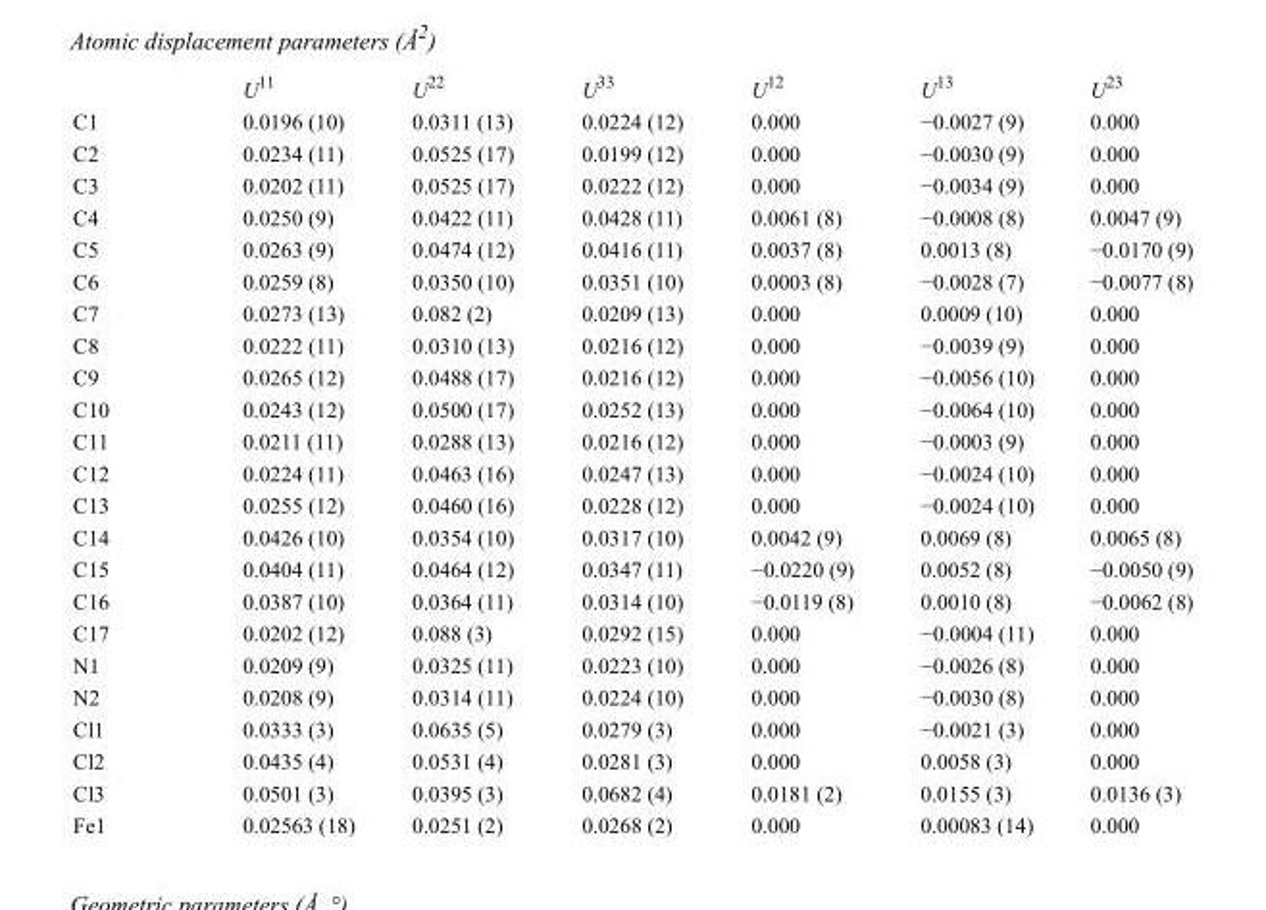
<table><thead><tr><td></td><td>U<sup>11</sup></td><td>U<sup>22</sup></td><td>U<sup>33</sup></td><td>U<sup>12</sup></td><td>U<sup>13</sup></td><td>U<sup>23</sup></td></tr></thead><tbody><tr><td>C1</td><td>0.0196 (10)</td><td>0.0311 (13)</td><td>0.0224 (12)</td><td>0.000</td><td>−0.0027 (9)</td><td>0.000</td></tr><tr><td>C2</td><td>0.0234 (11)</td><td>0.0525 (17)</td><td>0.0199 (12)</td><td>0.000</td><td>−0.0030 (9)</td><td>0.000</td></tr><tr><td>C3</td><td>0.0202 (11)</td><td>0.0525 (17)</td><td>0.0222 (12)</td><td>0.000</td><td>−0.0034 (9)</td><td>0.000</td></tr><tr><td>C4</td><td>0.0250 (9)</td><td>0.0422 (11)</td><td>0.0428 (11)</td><td>0.0061 (8)</td><td>−0.0008 (8)</td><td>0.0047 (9)</td></tr><tr><td>C5</td><td>0.0263 (9)</td><td>0.0474 (12)</td><td>0.0416 (11)</td><td>0.0037 (8)</td><td>0.0013 (8)</td><td>−0.0170 (9)</td></tr><tr><td>C6</td><td>0.0259 (8)</td><td>0.0350 (10)</td><td>0.0351 (10)</td><td>0.0003 (8)</td><td>−0.0028 (7)</td><td>−0.0077 (8)</td></tr><tr><td>C7</td><td>0.0273 (13)</td><td>0.082 (2)</td><td>0.0209 (13)</td><td>0.000</td><td>0.0009 (10)</td><td>0.000</td></tr><tr><td>C8</td><td>0.0222 (11)</td><td>0.0310 (13)</td><td>0.0216 (12)</td><td>0.000</td><td>−0.0039 (9)</td><td>0.000</td></tr><tr><td>C9</td><td>0.0265 (12)</td><td>0.0488 (17)</td><td>0.0216 (12)</td><td>0.000</td><td>−0.0056 (10)</td><td>0.000</td></tr><tr><td>C10</td><td>0.0243 (12)</td><td>0.0500 (17)</td><td>0.0252 (13)</td><td>0.000</td><td>−0.0064 (10)</td><td>0.000</td></tr><tr><td>C11</td><td>0.0211 (11)</td><td>0.0288 (13)</td><td>0.0216 (12)</td><td>0.000</td><td>−0.0003 (9)</td><td>0.000</td></tr><tr><td>C12</td><td>0.0224 (11)</td><td>0.0463 (16)</td><td>0.0247 (13)</td><td>0.000</td><td>−0.0024 (10)</td><td>0.000</td></tr><tr><td>C13</td><td>0.0255 (12)</td><td>0.0460 (16)</td><td>0.0228 (12)</td><td>0.000</td><td>−0.0024 (10)</td><td>0.000</td></tr><tr><td>C14</td><td>0.0426 (10)</td><td>0.0354 (10)</td><td>0.0317 (10)</td><td>0.0042 (9)</td><td>0.0069 (8)</td><td>0.0065 (8)</td></tr><tr><td>C15</td><td>0.0404 (11)</td><td>0.0464 (12)</td><td>0.0347 (11)</td><td>−0.0220 (9)</td><td>0.0052 (8)</td><td>−0.0050 (9)</td></tr><tr><td>C16</td><td>0.0387 (10)</td><td>0.0364 (11)</td><td>0.0314 (10)</td><td>−0.0119 (8)</td><td>0.0010 (8)</td><td>−0.0062 (8)</td></tr><tr><td>C17</td><td>0.0202 (12)</td><td>0.088 (3)</td><td>0.0292 (15)</td><td>0.000</td><td>−0.0004 (11)</td><td>0.000</td></tr><tr><td>N1</td><td>0.0209 (9)</td><td>0.0325 (11)</td><td>0.0223 (10)</td><td>0.000</td><td>−0.0026 (8)</td><td>0.000</td></tr><tr><td>N2</td><td>0.0208 (9)</td><td>0.0314 (11)</td><td>0.0224 (10)</td><td>0.000</td><td>−0.0030 (8)</td><td>0.000</td></tr><tr><td>Cl1</td><td>0.0333 (3)</td><td>0.0635 (5)</td><td>0.0279 (3)</td><td>0.000</td><td>−0.0021 (3)</td><td>0.000</td></tr><tr><td>Cl2</td><td>0.0435 (4)</td><td>0.0531 (4)</td><td>0.0281 (3)</td><td>0.000</td><td>0.0058 (3)</td><td>0.000</td></tr><tr><td>Cl3</td><td>0.0501 (3)</td><td>0.0395 (3)</td><td>0.0682 (4)</td><td>0.0181 (2)</td><td>0.0155 (3)</td><td>0.0136 (3)</td></tr><tr><td>Fe1</td><td>0.02563 (18)</td><td>0.0251 (2)</td><td>0.0268 (2)</td><td>0.000</td><td>0.00083 (14)</td><td>0.000</td></tr></tbody></table>